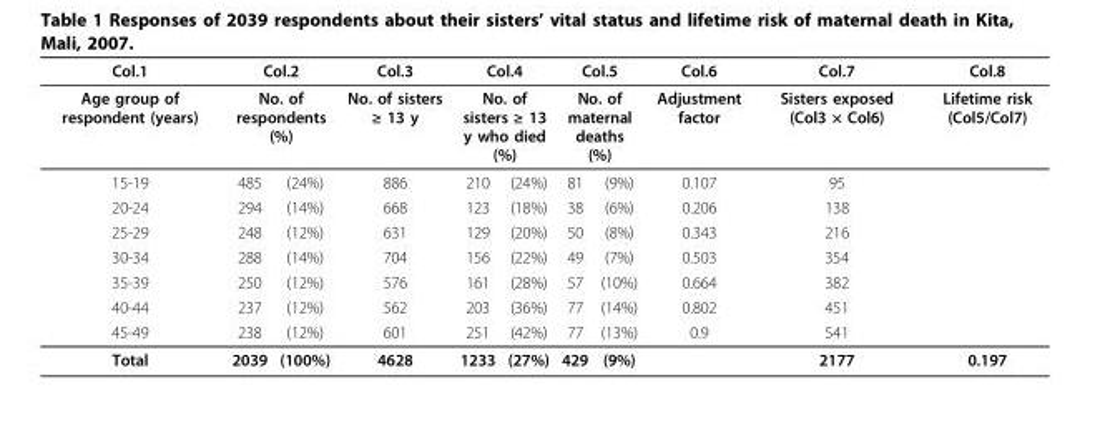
<table><thead><tr><td rowspan="3">Col.1 Age group of respondent (years) 15-19</td><td rowspan="2" colspan="2">Col.2 No. of respondents (%)</td><td rowspan="3">Col.3 No. of sisters ≥ 13 y 886</td><td rowspan="2" colspan="2">Col.4 No. of sisters ≥ 13 y who died (%)</td><td rowspan="2" colspan="2">Col.5 No. of maternal deaths (%)</td><td rowspan="3">Col.6 Adjustment factor 0.107</td><td rowspan="3">Col.7 Sisters exposed (Col3 × Col6) 95</td><td rowspan="3">Col.8 Lifetime risk (Col5/Col7)</td></tr><tr></tr><tr><td>485</td><td>(24%)</td><td>210</td><td>(24%)</td><td>81</td><td>(9%)</td></tr></thead><tbody><tr><td>20-24</td><td>294</td><td>(14%)</td><td>668</td><td>123</td><td>(18%)</td><td>38</td><td>(6%)</td><td>0.206</td><td>138</td><td></td></tr><tr><td>25-29</td><td>248</td><td>(12%)</td><td>631</td><td>129</td><td>(20%)</td><td>50</td><td>(8%)</td><td>0.343</td><td>216</td><td></td></tr><tr><td>30-34</td><td>288</td><td>(14%)</td><td>704</td><td>156</td><td>(22%)</td><td>49</td><td>(7%)</td><td>0.503</td><td>354</td><td></td></tr><tr><td>35-39</td><td>250</td><td>(12%)</td><td>576</td><td>161</td><td>(28%)</td><td>57</td><td>(10%)</td><td>0.664</td><td>382</td><td></td></tr><tr><td>40-44</td><td>237</td><td>(12%)</td><td>562</td><td>203</td><td>(36%)</td><td>77</td><td>(14%)</td><td>0.802</td><td>451</td><td></td></tr><tr><td>45-49</td><td>238</td><td>(12%)</td><td>601</td><td>251</td><td>(42%)</td><td>77</td><td>(13%)</td><td>0.9</td><td>541</td><td></td></tr><tr><td>Total</td><td>2039</td><td>(100%)</td><td>4628</td><td>1233</td><td>(27%)</td><td>429</td><td>(9%)</td><td></td><td>2177</td><td>0.197</td></tr></tbody></table>